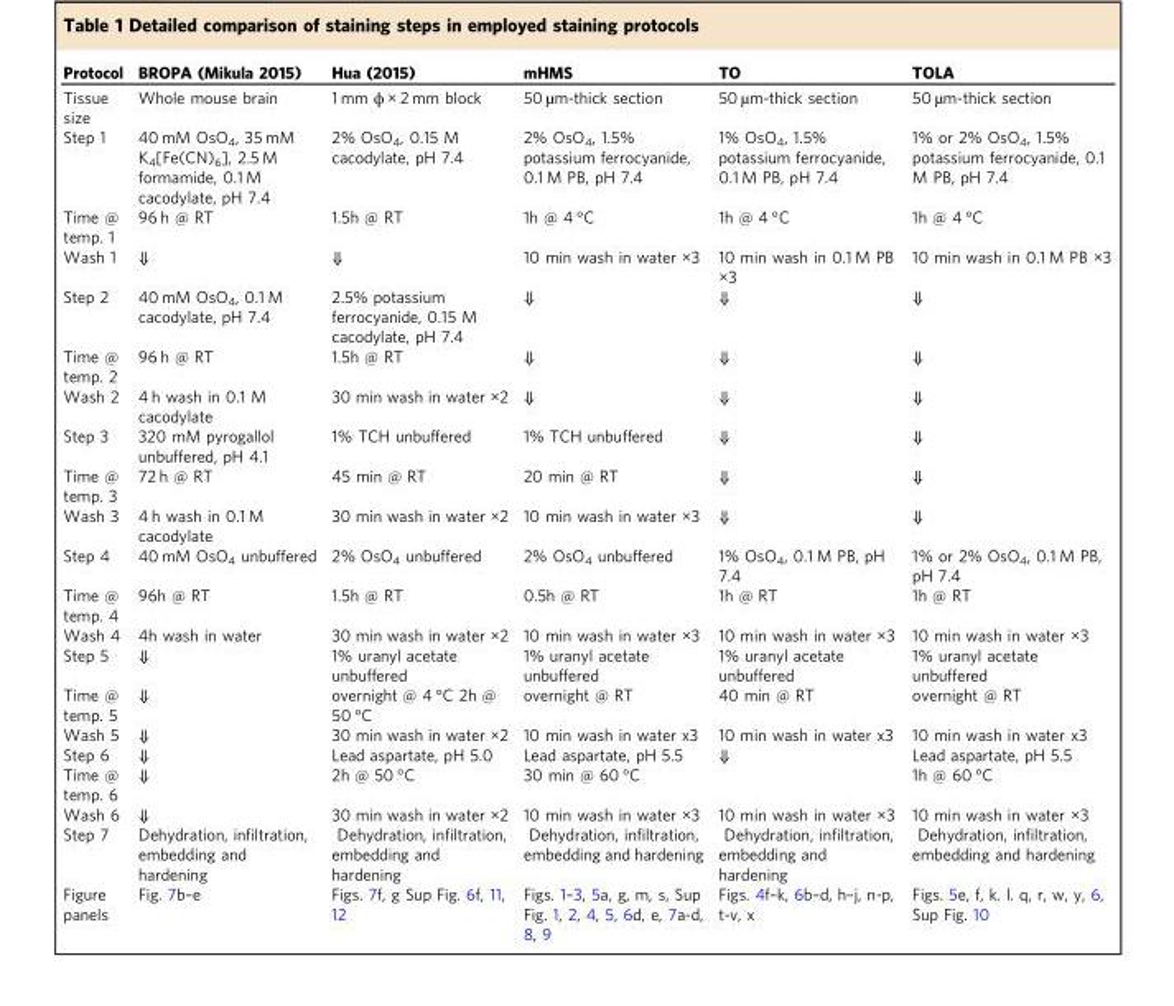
<table><thead><tr><td>Protocol</td><td>BROPA (Mikula 2015)</td><td>Hua (2015)</td><td>mHMS</td><td>TO</td><td>TOLA</td></tr></thead><tbody><tr><td>Tissue size</td><td>Whole mouse brain</td><td>1 mm ϕ × 2 mm block</td><td>50 µm-thick section</td><td>50 µm-thick section</td><td>50 µm-thick section</td></tr><tr><td>Step 1</td><td>40 mM OsO<sub>4</sub>, 35 mM K<sub>4</sub>[Fe(CN)<sub>6</sub>], 2.5 M formamide, 0.1 M cacodylate, pH 7.4</td><td>2% OsO<sub>4</sub>, 0.15 M cacodylate, pH 7.4</td><td>2% OsO<sub>4</sub>, 1.5% potassium ferrocyanide, 0.1 M PB, pH 7.4</td><td>1% OsO<sub>4</sub>, 1.5% potassium ferrocyanide, 0.1 M PB, pH 7.4</td><td>1% or 2% OsO<sub>4</sub>, 1.5% potassium ferrocyanide, 0.1 M PB, pH 7.4</td></tr><tr><td>Time @ temp. 1</td><td>96 h @ RT</td><td>1.5h @ RT</td><td>1h @ 4 °C</td><td>1h @ 4 °C</td><td>1h @ 4 °C</td></tr><tr><td>Wash 1</td><td>⇓</td><td>⇓</td><td>10 min wash in water ×3</td><td>10 min wash in 0.1 M PB ×3</td><td>10 min wash in 0.1 M PB ×3</td></tr><tr><td>Step 2</td><td>40 mM OsO<sub>4</sub>, 0.1 M cacodylate, pH 7.4</td><td>2.5% potassium ferrocyanide, 0.15 M cacodylate, pH 7.4</td><td>⇓</td><td>⇓</td><td>⇓</td></tr><tr><td>Time @ temp. 2</td><td>96 h @ RT</td><td>1.5h @ RT</td><td>⇓</td><td>⇓</td><td>⇓</td></tr><tr><td>Wash 2</td><td>4 h wash in 0.1 M cacodylate</td><td>30 min wash in water ×2</td><td>⇓</td><td>⇓</td><td>⇓</td></tr><tr><td>Step 3</td><td>320 mM pyrogallol unbuffered, pH 4.1</td><td>1% TCH unbuffered</td><td>1% TCH unbuffered</td><td>⇓</td><td>⇓</td></tr><tr><td>Time @ temp. 3</td><td>72 h @ RT</td><td>45 min @ RT</td><td>20 min @ RT</td><td>⇓</td><td>⇓</td></tr><tr><td>Wash 3</td><td>4 h wash in 0.1 M cacodylate</td><td>30 min wash in water ×2</td><td>10 min wash in water ×3</td><td>⇓</td><td>⇓</td></tr><tr><td>Step 4</td><td>40 mM OsO<sub>4</sub> unbuffered</td><td>2% OsO<sub>4</sub> unbuffered</td><td>2% OsO<sub>4</sub> unbuffered</td><td>1% OsO<sub>4</sub>, 0.1 M PB, pH 7.4</td><td>1% or 2% OsO<sub>4</sub>, 0.1 M PB, pH 7.4</td></tr><tr><td>Time @ temp. 4</td><td>96h @ RT</td><td>1.5h @ RT</td><td>0.5h @ RT</td><td>1h @ RT</td><td>1h @ RT</td></tr><tr><td>Wash 4</td><td>4h wash in water</td><td>30 min wash in water ×2</td><td>10 min wash in water ×3</td><td>10 min wash in water ×3</td><td>10 min wash in water ×3</td></tr><tr><td>Step 5</td><td>⇓</td><td>1% uranyl acetate unbuffered</td><td>1% uranyl acetate unbuffered</td><td>1% uranyl acetate unbuffered</td><td>1% uranyl acetate unbuffered</td></tr><tr><td>Time @ temp. 5</td><td>⇓</td><td>overnight @ 4 °C 2h @ 50 °C</td><td>overnight @ RT</td><td>40 min @ RT</td><td>overnight @ RT</td></tr><tr><td>Wash 5</td><td>⇓</td><td>30 min wash in water ×2</td><td>10 min wash in water x3</td><td>10 min wash in water x3</td><td>10 min wash in water x3</td></tr><tr><td>Step 6</td><td>⇓</td><td>Lead aspartate, pH 5.0</td><td>Lead aspartate, pH 5.5</td><td>⇓</td><td>Lead aspartate, pH 5.5</td></tr><tr><td>Time @ temp. 6</td><td>⇓</td><td>2h @ 50 °C</td><td>30 min @ 60 °C</td><td></td><td>1h @ 60 °C</td></tr><tr><td>Wash 6</td><td>⇓</td><td>30 min wash in water ×2</td><td>10 min wash in water ×3</td><td>10 min wash in water ×3</td><td>10 min wash in water ×3</td></tr><tr><td>Step 7</td><td>Dehydration, infiltration, embedding and hardening</td><td>Dehydration, infiltration, embedding and hardening</td><td>Dehydration, infiltration, embedding and hardening</td><td>Dehydration, infiltration, embedding and hardening</td><td>Dehydration, infiltration, embedding and hardening</td></tr><tr><td>Figure panels</td><td>Fig. 7b–e</td><td>Figs. 7f, g Sup Fig. 6f, 11, 12</td><td>Figs. 1–3, 5a, g, m, s, Sup Fig. 1, 2, 4, 5, 6d, e, 7a-d, 8, 9</td><td>Figs. 4f–k, 6b–d, h–j, n-p, t-v, x</td><td>Figs. 5e, f, k. l. q, r, w, y, 6, Sup Fig. 10</td></tr></tbody></table>